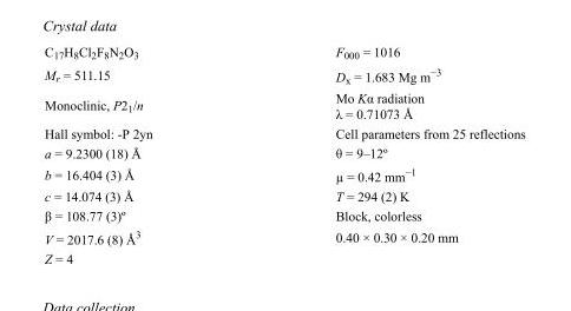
<table><tbody><tr><td>C<sub>17</sub>H<sub>8</sub>Cl<sub>2</sub>F<sub>8</sub>N<sub>2</sub>O<sub>3</sub></td><td>F<sub>000</sub> = 1016</td></tr><tr><td>M<sub>r</sub> = 511.15</td><td>D<sub>x</sub> = 1.683 Mg m<sup>−3</sup></td></tr><tr><td>Monoclinic, P2<sub>1</sub>/n</td><td>Mo Kα radiation λ = 0.71073 Å</td></tr><tr><td>Hall symbol: -P 2yn</td><td>Cell parameters from 25 reflections</td></tr><tr><td>a = 9.2300 (18) Å</td><td>θ = 9–12º</td></tr><tr><td>b = 16.404 (3) Å</td><td>µ = 0.42 mm<sup>−1</sup></td></tr><tr><td>c = 14.074 (3) Å</td><td>T = 294 (2) K</td></tr><tr><td>β = 108.77 (3)º</td><td>Block, colorless</td></tr><tr><td>V = 2017.6 (8) Å<sup>3</sup></td><td>0.40 × 0.30 × 0.20 mm</td></tr><tr><td>Z = 4</td><td></td></tr></tbody></table>